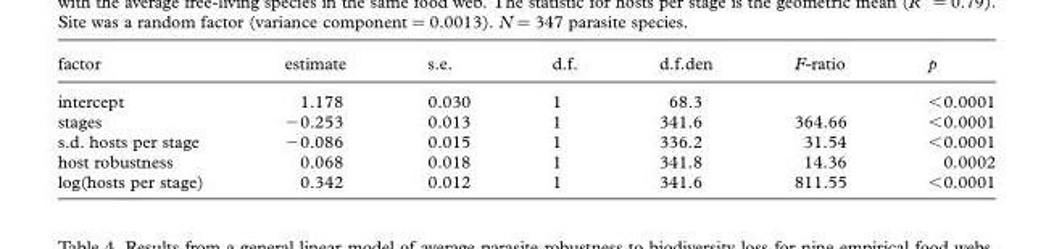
<table><thead><tr><td>factor</td><td>estimate</td><td>s.e.</td><td>d.f.</td><td>d.f.den</td><td>F-ratio</td><td>p</td></tr></thead><tbody><tr><td>intercept</td><td>1.178</td><td>0.030</td><td>1</td><td>68.3</td><td></td><td>&lt;0.0001</td></tr><tr><td>stages</td><td>−0.253</td><td>0.013</td><td>1</td><td>341.6</td><td>364.66</td><td>&lt;0.0001</td></tr><tr><td>s.d. hosts per stage</td><td>−0.086</td><td>0.015</td><td>1</td><td>336.2</td><td>31.54</td><td>&lt;0.0001</td></tr><tr><td>host robustness</td><td>0.068</td><td>0.018</td><td>1</td><td>341.8</td><td>14.36</td><td>0.0002</td></tr><tr><td>log(hosts per stage)</td><td>0.342</td><td>0.012</td><td>1</td><td>341.6</td><td>811.55</td><td>&lt;0.0001</td></tr></tbody></table>